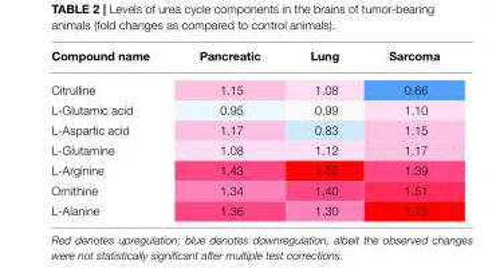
<table><thead><tr><td>Compound name</td><td>Pancreatic</td><td>Lung</td><td>Sarcoma</td></tr></thead><tbody><tr><td>Citrulline</td><td>1.15</td><td>1.08</td><td>0.66</td></tr><tr><td>L-Glutamic acid</td><td>0.95</td><td>0.99</td><td>1.10</td></tr><tr><td>L-Aspartic acid</td><td>1.17</td><td>0.83</td><td>1.15</td></tr><tr><td>L-Glutamine</td><td>1.08</td><td>1.12</td><td>1.17</td></tr><tr><td>L-Arginine</td><td>1.43</td><td>1.62</td><td>1.39</td></tr><tr><td>Ornithine</td><td>1.34</td><td>1.40</td><td>1.51</td></tr><tr><td>L-Alanine</td><td>1.36</td><td>1.30</td><td>1.75</td></tr></tbody></table>